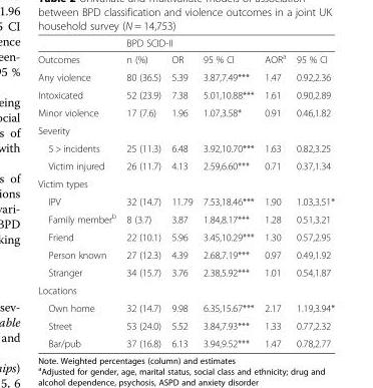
<table><thead><tr><td rowspan="2">Outcomes</td><td colspan="5">BPD SCID-II</td></tr><tr><td>n (%)</td><td>OR</td><td>95 % CI</td><td>AOR<sup>a</sup></td><td>95 % CI</td></tr></thead><tbody><tr><td>Any violence</td><td>80 (36.5)</td><td>5.39</td><td>3.87,7.49***</td><td>1.47</td><td>0.92,2.36</td></tr><tr><td>Intoxicated</td><td>52 (23.9)</td><td>7.38</td><td>5.01,10.88***</td><td>1.61</td><td>0.90,2.89</td></tr><tr><td>Minor violence</td><td>17 (7.6)</td><td>1.96</td><td>1.07,3.58*</td><td>0.91</td><td>0.46,1.82</td></tr><tr><td colspan="6">Severity</td></tr><tr><td>5 &gt; incidents</td><td>25 (11.3)</td><td>6.48</td><td>3.92,10.70***</td><td>1.63</td><td>0.82,3.25</td></tr><tr><td>Victim injured</td><td>26 (11.7)</td><td>4.13</td><td>2.59,6.60***</td><td>0.71</td><td>0.37,1.34</td></tr><tr><td colspan="6">Victim types</td></tr><tr><td>IPV</td><td>32 (14.7)</td><td>11.79</td><td>7.53,18.46***</td><td>1.90</td><td>1.03,3.51*</td></tr><tr><td>Family member<sup>b</sup></td><td>8 (3.7)</td><td>3.87</td><td>1.84,8.17***</td><td>1.28</td><td>0.51,3.21</td></tr><tr><td>Friend</td><td>22 (10.1)</td><td>5.96</td><td>3.45,10.29***</td><td>1.30</td><td>0.57,2.95</td></tr><tr><td>Person known</td><td>27 (12.3)</td><td>4.39</td><td>2.68,7.19***</td><td>0.97</td><td>0.49,1.92</td></tr><tr><td>Stranger</td><td>34 (15.7)</td><td>3.76</td><td>2.38,5.92***</td><td>1.01</td><td>0.54,1.87</td></tr><tr><td colspan="6">Locations</td></tr><tr><td>Own home</td><td>32 (14.7)</td><td>9.98</td><td>6.35,15.67***</td><td>2.17</td><td>1.19,3.94*</td></tr><tr><td>Street</td><td>53 (24.0)</td><td>5.52</td><td>3.84,7.93***</td><td>1.33</td><td>0.77,2.32</td></tr><tr><td>Bar/pub</td><td>37 (16.8)</td><td>6.13</td><td>3.94,9.52***</td><td>1.47</td><td>0.78,2.77</td></tr></tbody></table>